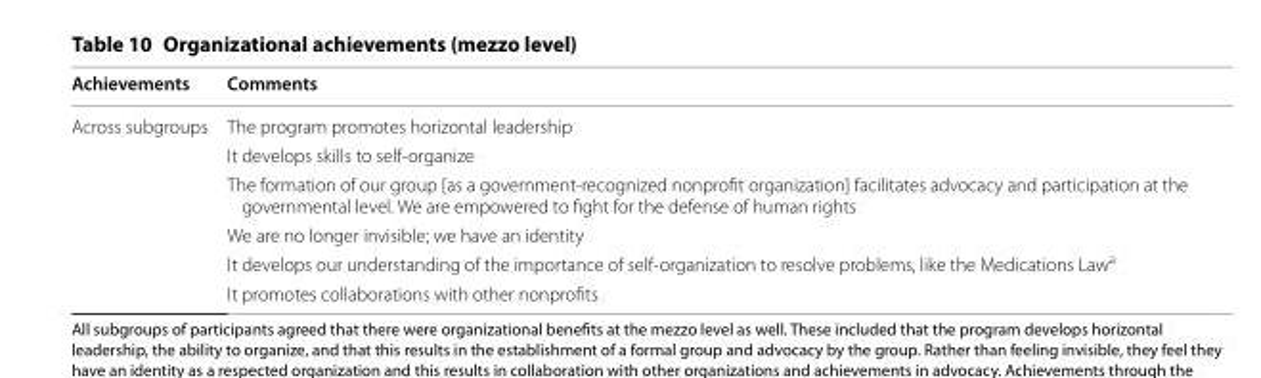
<table><thead><tr><td>Achievements</td><td>Comments</td></tr></thead><tbody><tr><td rowspan="6">Across subgroups</td><td>The program promotes horizontal leadership</td></tr><tr><td>It develops skills to self-organize</td></tr><tr><td>The formation of our group [as a government-recognized nonprofit organization] facilitates advocacy and participation at the governmental level. We are empowered to fight for the defense of human rights</td></tr><tr><td>We are no longer invisible; we have an identity</td></tr><tr><td>It develops our understanding of the importance of self-organization to resolve problems, like the Medications Law<sup>a</sup></td></tr><tr><td>It promotes collaborations with other nonprofits</td></tr></tbody></table>